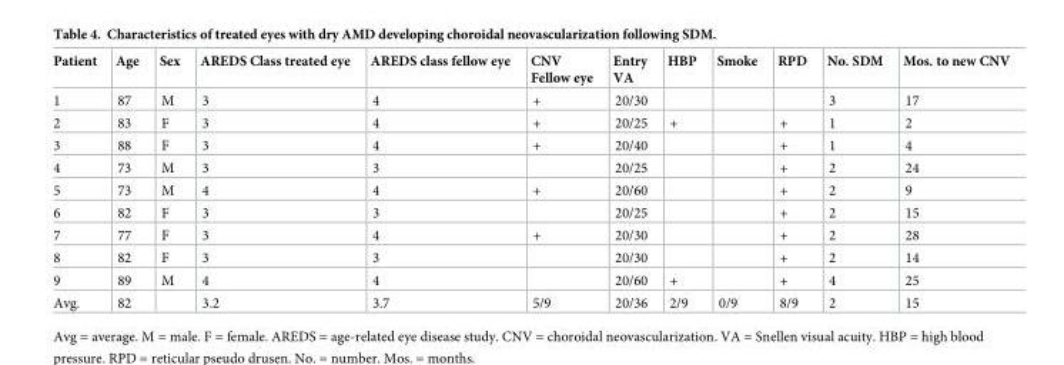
<table><thead><tr><td>Patient</td><td>Age</td><td>Sex</td><td>AREDS Class treated eye</td><td>AREDS class fellow eye</td><td>CNV Fellow eye</td><td>Entry VA</td><td>HBP</td><td>Smoke</td><td>RPD</td><td>No. SDM</td><td>Mos. to new CNV</td></tr></thead><tbody><tr><td>1</td><td>87</td><td>M</td><td>3</td><td>4</td><td>+</td><td>20/30</td><td></td><td></td><td></td><td>3</td><td>17</td></tr><tr><td>2</td><td>83</td><td>F</td><td>3</td><td>4</td><td>+</td><td>20/25</td><td>+</td><td></td><td>+</td><td>1</td><td>2</td></tr><tr><td>3</td><td>88</td><td>F</td><td>3</td><td>4</td><td>+</td><td>20/40</td><td></td><td></td><td>+</td><td>1</td><td>4</td></tr><tr><td>4</td><td>73</td><td>M</td><td>3</td><td>3</td><td></td><td>20/25</td><td></td><td></td><td>+</td><td>2</td><td>24</td></tr><tr><td>5</td><td>73</td><td>M</td><td>4</td><td>4</td><td>+</td><td>20/60</td><td></td><td></td><td>+</td><td>2</td><td>9</td></tr><tr><td>6</td><td>82</td><td>F</td><td>3</td><td>3</td><td></td><td>20/25</td><td></td><td></td><td>+</td><td>2</td><td>15</td></tr><tr><td>7</td><td>77</td><td>F</td><td>3</td><td>4</td><td>+</td><td>20/30</td><td></td><td></td><td>+</td><td>2</td><td>28</td></tr><tr><td>8</td><td>82</td><td>F</td><td>3</td><td>3</td><td></td><td>20/30</td><td></td><td></td><td>+</td><td>2</td><td>14</td></tr><tr><td>9</td><td>89</td><td>M</td><td>4</td><td>4</td><td></td><td>20/60</td><td>+</td><td></td><td>+</td><td>4</td><td>25</td></tr><tr><td>Avg.</td><td>82</td><td></td><td>3.2</td><td>3.7</td><td>5/9</td><td>20/36</td><td>2/9</td><td>0/9</td><td>8/9</td><td>2</td><td>15</td></tr></tbody></table>